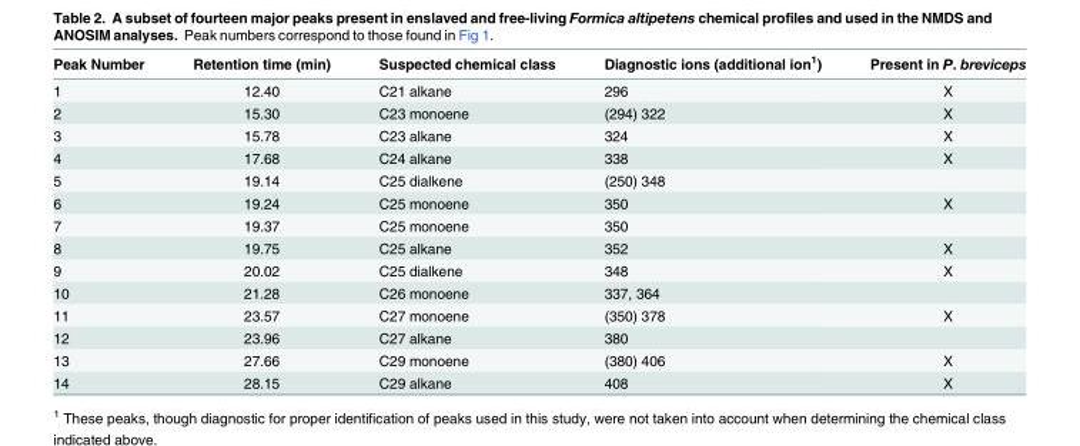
<table><thead><tr><td>Peak Number</td><td>Retention time (min)</td><td>Suspected chemical class</td><td>Diagnostic ions (additional ion<sup>1</sup>)</td><td>Present in P. breviceps</td></tr></thead><tbody><tr><td>1</td><td>12.40</td><td>C21 alkane</td><td>296</td><td>X</td></tr><tr><td>2</td><td>15.30</td><td>C23 monoene</td><td>(294) 322</td><td>X</td></tr><tr><td>3</td><td>15.78</td><td>C23 alkane</td><td>324</td><td>X</td></tr><tr><td>4</td><td>17.68</td><td>C24 alkane</td><td>338</td><td>X</td></tr><tr><td>5</td><td>19.14</td><td>C25 dialkene</td><td>(250) 348</td><td></td></tr><tr><td>6</td><td>19.24</td><td>C25 monoene</td><td>350</td><td>X</td></tr><tr><td>7</td><td>19.37</td><td>C25 monoene</td><td>350</td><td></td></tr><tr><td>8</td><td>19.75</td><td>C25 alkane</td><td>352</td><td>X</td></tr><tr><td>9</td><td>20.02</td><td>C25 dialkene</td><td>348</td><td>X</td></tr><tr><td>10</td><td>21.28</td><td>C26 monoene</td><td>337, 364</td><td></td></tr><tr><td>11</td><td>23.57</td><td>C27 monoene</td><td>(350) 378</td><td>X</td></tr><tr><td>12</td><td>23.96</td><td>C27 alkane</td><td>380</td><td></td></tr><tr><td>13</td><td>27.66</td><td>C29 monoene</td><td>(380) 406</td><td>X</td></tr><tr><td>14</td><td>28.15</td><td>C29 alkane</td><td>408</td><td>X</td></tr></tbody></table>